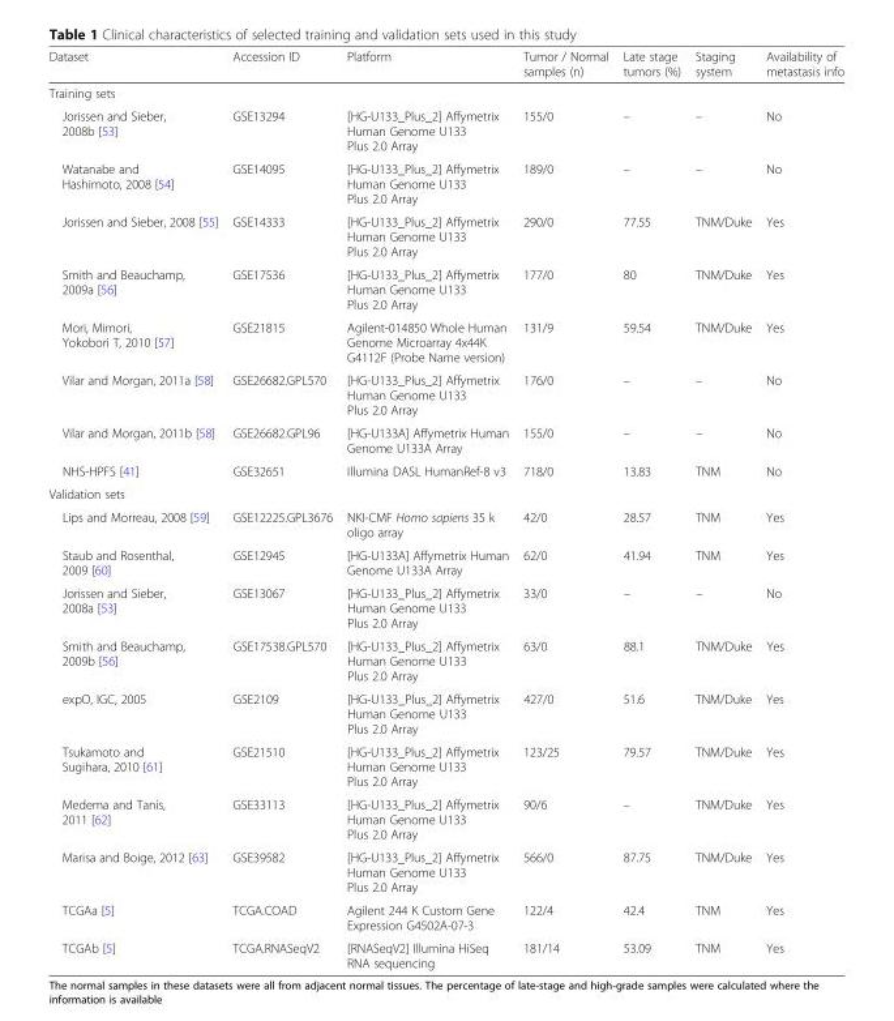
<table><thead><tr><td>Dataset</td><td>Accession ID</td><td>Platform</td><td>Tumor / Normal samples (n)</td><td>Late stage tumors (%)</td><td>Staging system</td><td>Availability of metastasis info</td></tr></thead><tbody><tr><td colspan="7">Training sets</td></tr><tr><td>Jorissen and Sieber, 2008b [53]</td><td>GSE13294</td><td>[HG-U133_Plus_2] Affymetrix Human Genome U133 Plus 2.0 Array</td><td>155/0</td><td>–</td><td>–</td><td>No</td></tr><tr><td>Watanabe and Hashimoto, 2008 [54]</td><td>GSE14095</td><td>[HG-U133_Plus_2] Affymetrix Human Genome U133 Plus 2.0 Array</td><td>189/0</td><td>–</td><td>–</td><td>No</td></tr><tr><td>Jorissen and Sieber, 2008 [55]</td><td>GSE14333</td><td>[HG-U133_Plus_2] Affymetrix Human Genome U133 Plus 2.0 Array</td><td>290/0</td><td>77.55</td><td>TNM/Duke</td><td>Yes</td></tr><tr><td>Smith and Beauchamp, 2009a [56]</td><td>GSE17536</td><td>[HG-U133_Plus_2] Affymetrix Human Genome U133 Plus 2.0 Array</td><td>177/0</td><td>80</td><td>TNM/Duke</td><td>Yes</td></tr><tr><td>Mori, Mimori, Yokobori T, 2010 [57]</td><td>GSE21815</td><td>Agilent-014850 Whole Human Genome Microarray 4x44K G4112F (Probe Name version)</td><td>131/9</td><td>59.54</td><td>TNM/Duke</td><td>Yes</td></tr><tr><td>Vilar and Morgan, 2011a [58]</td><td>GSE26682.GPL570</td><td>[HG-U133_Plus_2] Affymetrix Human Genome U133 Plus 2.0 Array</td><td>176/0</td><td>–</td><td>–</td><td>No</td></tr><tr><td>Vilar and Morgan, 2011b [58]</td><td>GSE26682.GPL96</td><td>[HG-U133A] Affymetrix Human Genome U133A Array</td><td>155/0</td><td>–</td><td>–</td><td>No</td></tr><tr><td>NHS-HPFS [41]</td><td>GSE32651</td><td>Illumina DASL HumanRef-8 v3</td><td>718/0</td><td>13.83</td><td>TNM</td><td>No</td></tr><tr><td colspan="7">Validation sets</td></tr><tr><td>Lips and Morreau, 2008 [59]</td><td>GSE12225.GPL3676</td><td>NKI-CMF Homo sapiens 35 k oligo array</td><td>42/0</td><td>28.57</td><td>TNM</td><td>Yes</td></tr><tr><td>Staub and Rosenthal, 2009 [60]</td><td>GSE12945</td><td>[HG-U133A] Affymetrix Human Genome U133A Array</td><td>62/0</td><td>41.94</td><td>TNM</td><td>Yes</td></tr><tr><td>Jorissen and Sieber, 2008a [53]</td><td>GSE13067</td><td>[HG-U133_Plus_2] Affymetrix Human Genome U133 Plus 2.0 Array</td><td>33/0</td><td>–</td><td>–</td><td>No</td></tr><tr><td>Smith and Beauchamp, 2009b [56]</td><td>GSE17538.GPL570</td><td>[HG-U133_Plus_2] Affymetrix Human Genome U133 Plus 2.0 Array</td><td>63/0</td><td>88.1</td><td>TNM/Duke</td><td>Yes</td></tr><tr><td>expO, IGC, 2005</td><td>GSE2109</td><td>[HG-U133_Plus_2] Affymetrix Human Genome U133 Plus 2.0 Array</td><td>427/0</td><td>51.6</td><td>TNM/Duke</td><td>Yes</td></tr><tr><td>Tsukamoto and Sugihara, 2010 [61]</td><td>GSE21510</td><td>[HG-U133_Plus_2] Affymetrix Human Genome U133 Plus 2.0 Array</td><td>123/25</td><td>79.57</td><td>TNM/Duke</td><td>Yes</td></tr><tr><td>Medema and Tanis, 2011 [62]</td><td>GSE33113</td><td>[HG-U133_Plus_2] Affymetrix Human Genome U133 Plus 2.0 Array</td><td>90/6</td><td>–</td><td>TNM/Duke</td><td>Yes</td></tr><tr><td>Marisa and Boige, 2012 [63]</td><td>GSE39582</td><td>[HG-U133_Plus_2] Affymetrix Human Genome U133 Plus 2.0 Array</td><td>566/0</td><td>87.75</td><td>TNM/Duke</td><td>Yes</td></tr><tr><td>TCGAa [5]</td><td>TCGA.COAD</td><td>Agilent 244 K Custom Gene Expression G4502A-07-3</td><td>122/4</td><td>42.4</td><td>TNM</td><td>Yes</td></tr><tr><td>TCGAb [5]</td><td>TCGA.RNASeqV2</td><td>[RNASeqV2] Illumina HiSeq RNA sequencing</td><td>181/14</td><td>53.09</td><td>TNM</td><td>Yes</td></tr></tbody></table>